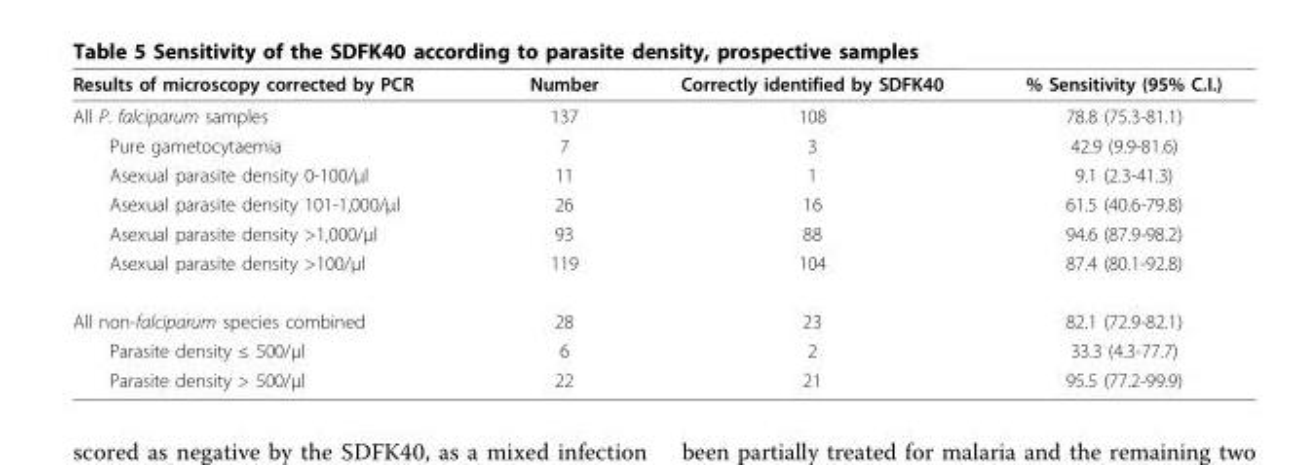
<table><tbody><tr><td>Results of microscopy corrected by PCR</td><td>Number</td><td>Correctly identified by SDFK40</td><td>% Sensitivity (95% C.I.)</td></tr><tr><td>All P. falciparum samples</td><td>137</td><td>108</td><td>78.8 (75.3-81.1)</td></tr><tr><td>Pure gametocytaemia</td><td>7</td><td>3</td><td>42.9 (9.9-81.6)</td></tr><tr><td>Asexual parasite density 0-100/μl</td><td>11</td><td>1</td><td>9.1 (2.3-41.3)</td></tr><tr><td>Asexual parasite density 101-1,000/μl</td><td>26</td><td>16</td><td>61.5 (40.6-79.8)</td></tr><tr><td>Asexual parasite density &gt;1,000/μl</td><td>93</td><td>88</td><td>94.6 (87.9-98.2)</td></tr><tr><td>Asexual parasite density &gt;100/μl</td><td>119</td><td>104</td><td>87.4 (80.1-92.8)</td></tr><tr><td>All non-falciparum species combined</td><td>28</td><td>23</td><td>82.1 (72.9-82.1)</td></tr><tr><td>Parasite density ≤ 500/μl</td><td>6</td><td>2</td><td>33.3 (4.3-77.7)</td></tr><tr><td>Parasite density &gt; 500/μl</td><td>22</td><td>21</td><td>95.5 (77.2-99.9)</td></tr></tbody></table>